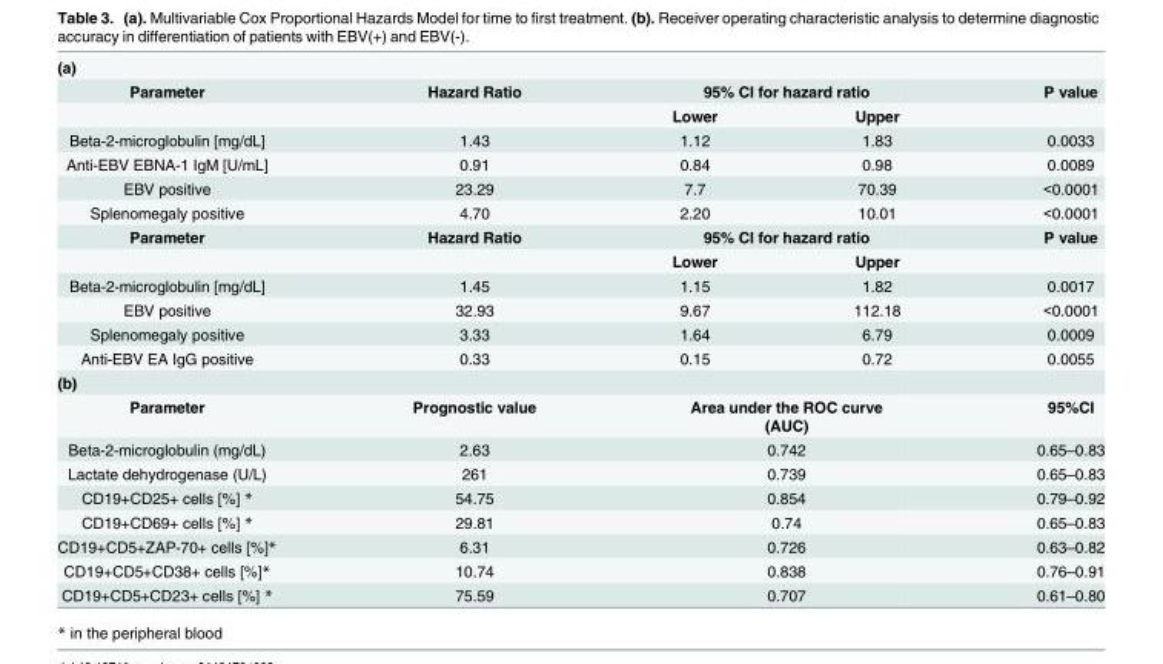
<table><tbody><tr><td colspan="5">(a)</td></tr><tr><td rowspan="2">Parameter</td><td>Hazard Ratio</td><td colspan="2">95% CI for hazard ratio</td><td>P value</td></tr><tr><td></td><td>Lower</td><td>Upper</td><td></td></tr><tr><td>Beta-2-microglobulin [mg/dL]</td><td>1.43</td><td>1.12</td><td>1.83</td><td>0.0033</td></tr><tr><td>Anti-EBV EBNA-1 IgM [U/mL]</td><td>0.91</td><td>0.84</td><td>0.98</td><td>0.0089</td></tr><tr><td>EBV positive</td><td>23.29</td><td>7.7</td><td>70.39</td><td>&lt;0.0001</td></tr><tr><td>Splenomegaly positive</td><td>4.70</td><td>2.20</td><td>10.01</td><td>&lt;0.0001</td></tr><tr><td rowspan="2">Parameter</td><td>Hazard Ratio</td><td colspan="2">95% CI for hazard ratio</td><td>P value</td></tr><tr><td></td><td>Lower</td><td>Upper</td><td></td></tr><tr><td>Beta-2-microglobulin [mg/dL]</td><td>1.45</td><td>1.15</td><td>1.82</td><td>0.0017</td></tr><tr><td>EBV positive</td><td>32.93</td><td>9.67</td><td>112.18</td><td>&lt;0.0001</td></tr><tr><td>Splenomegaly positive</td><td>3.33</td><td>1.64</td><td>6.79</td><td>0.0009</td></tr><tr><td>Anti-EBV EA IgG positive</td><td>0.33</td><td>0.15</td><td>0.72</td><td>0.0055</td></tr><tr><td colspan="5">(b)</td></tr><tr><td>Parameter</td><td>Prognostic value</td><td colspan="2">Area under the ROC curve (AUC)</td><td>95%CI</td></tr><tr><td>Beta-2-microglobulin (mg/dL)</td><td>2.63</td><td colspan="2">0.742</td><td>0.65–0.83</td></tr><tr><td>Lactate dehydrogenase (U/L)</td><td>261</td><td colspan="2">0.739</td><td>0.65–0.83</td></tr><tr><td>CD19+CD25+ cells [%] *</td><td>54.75</td><td colspan="2">0.854</td><td>0.79–0.92</td></tr><tr><td>CD19+CD69+ cells [%] *</td><td>29.81</td><td colspan="2">0.74</td><td>0.65–0.83</td></tr><tr><td>CD19+CD5+ZAP-70+ cells [%]*</td><td>6.31</td><td colspan="2">0.726</td><td>0.63–0.82</td></tr><tr><td>CD19+CD5+CD38+ cells [%]*</td><td>10.74</td><td colspan="2">0.838</td><td>0.76–0.91</td></tr><tr><td>CD19+CD5+CD23+ cells [%] *</td><td>75.59</td><td colspan="2">0.707</td><td>0.61–0.80</td></tr></tbody></table>